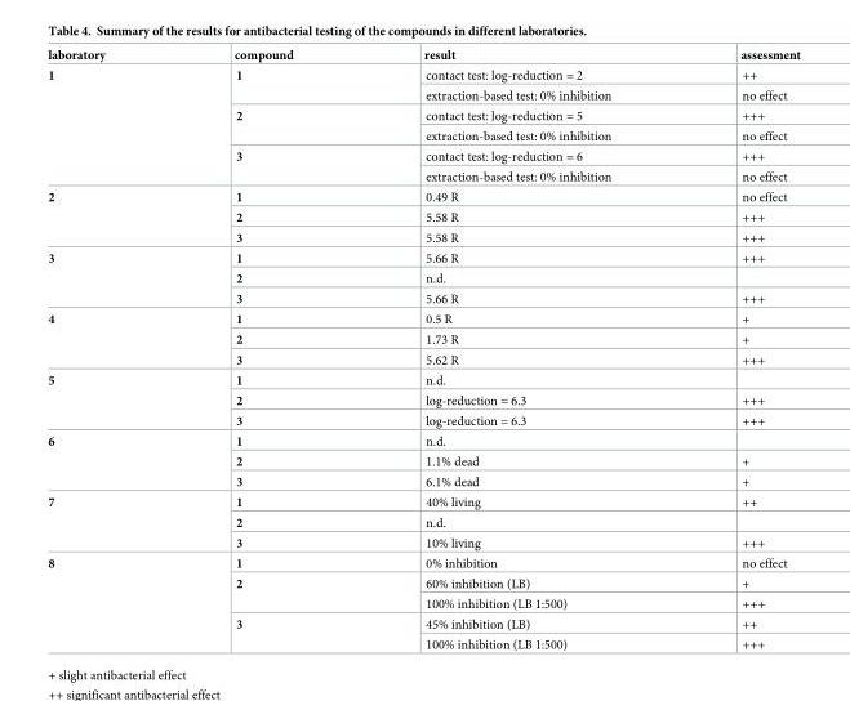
<table><thead><tr><td>laboratory</td><td>compound</td><td>result</td><td>assessment</td></tr></thead><tbody><tr><td rowspan="6">1</td><td rowspan="2">1</td><td>contact test: log-reduction = 2</td><td>++</td></tr><tr><td>extraction-based test: 0% inhibition</td><td>no effect</td></tr><tr><td rowspan="2">2</td><td>contact test: log-reduction = 5</td><td>+++</td></tr><tr><td>extraction-based test: 0% inhibition</td><td>no effect</td></tr><tr><td rowspan="2">3</td><td>contact test: log-reduction = 6</td><td>+++</td></tr><tr><td>extraction-based test: 0% inhibition</td><td>no effect</td></tr><tr><td rowspan="3">2</td><td>1</td><td>0.49 R</td><td>no effect</td></tr><tr><td>2</td><td>5.58 R</td><td>+++</td></tr><tr><td>3</td><td>5.58 R</td><td>+++</td></tr><tr><td rowspan="3">3</td><td>1</td><td>5.66 R</td><td>+++</td></tr><tr><td>2</td><td>n.d.</td><td></td></tr><tr><td>3</td><td>5.66 R</td><td>+++</td></tr><tr><td rowspan="3">4</td><td>1</td><td>0.5 R</td><td>+</td></tr><tr><td>2</td><td>1.73 R</td><td>+</td></tr><tr><td>3</td><td>5.62 R</td><td>+++</td></tr><tr><td rowspan="3">5</td><td>1</td><td>n.d.</td><td></td></tr><tr><td>2</td><td>log-reduction = 6.3</td><td>+++</td></tr><tr><td>3</td><td>log-reduction = 6.3</td><td>+++</td></tr><tr><td rowspan="3">6</td><td>1</td><td>n.d.</td><td></td></tr><tr><td>2</td><td>1.1% dead</td><td>+</td></tr><tr><td>3</td><td>6.1% dead</td><td>+</td></tr><tr><td rowspan="3">7</td><td>1</td><td>40% living</td><td>++</td></tr><tr><td>2</td><td>n.d.</td><td></td></tr><tr><td>3</td><td>10% living</td><td>+++</td></tr><tr><td rowspan="5">8</td><td>1</td><td>0% inhibition</td><td>no effect</td></tr><tr><td rowspan="2">2</td><td>60% inhibition (LB)</td><td>+</td></tr><tr><td>100% inhibition (LB 1:500)</td><td>+++</td></tr><tr><td rowspan="2">3</td><td>45% inhibition (LB)</td><td>++</td></tr><tr><td>100% inhibition (LB 1:500)</td><td>+++</td></tr></tbody></table>